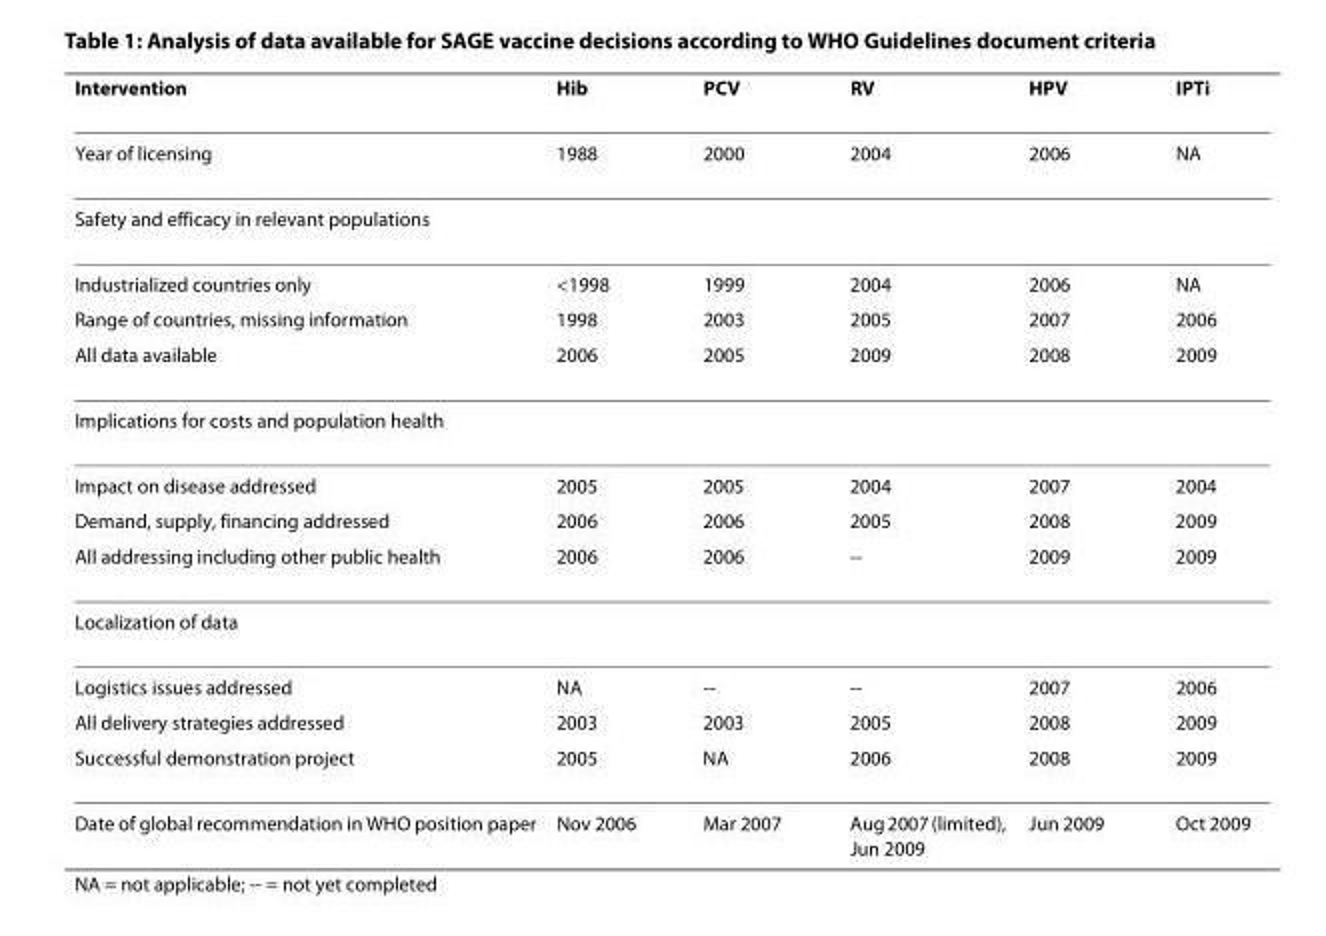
<table><thead><tr><td>Intervention</td><td>Hib</td><td>PCV</td><td>RV</td><td>HPV</td><td>IPTi</td></tr></thead><tbody><tr><td>Year of licensing</td><td>1988</td><td>2000</td><td>2004</td><td>2006</td><td>NA</td></tr><tr><td colspan="6">Safety and efficacy in relevant populations</td></tr><tr><td>Industrialized countries only</td><td>&lt;1998</td><td>1999</td><td>2004</td><td>2006</td><td>NA</td></tr><tr><td>Range of countries, missing information</td><td>1998</td><td>2003</td><td>2005</td><td>2007</td><td>2006</td></tr><tr><td>All data available</td><td>2006</td><td>2005</td><td>2009</td><td>2008</td><td>2009</td></tr><tr><td colspan="6">Implications for costs and population health</td></tr><tr><td>Impact on disease addressed</td><td>2005</td><td>2005</td><td>2004</td><td>2007</td><td>2004</td></tr><tr><td>Demand, supply, financing addressed</td><td>2006</td><td>2006</td><td>2005</td><td>2008</td><td>2009</td></tr><tr><td>All addressing including other public health</td><td>2006</td><td>2006</td><td>--</td><td>2009</td><td>2009</td></tr><tr><td colspan="6">Localization of data</td></tr><tr><td>Logistics issues addressed</td><td>NA</td><td>--</td><td>--</td><td>2007</td><td>2006</td></tr><tr><td>All delivery strategies addressed</td><td>2003</td><td>2003</td><td>2005</td><td>2008</td><td>2009</td></tr><tr><td>Successful demonstration project</td><td>2005</td><td>NA</td><td>2006</td><td>2008</td><td>2009</td></tr><tr><td>Date of global recommendation in WHO position paper</td><td>Nov 2006</td><td>Mar 2007</td><td>Aug 2007 (limited), Jun 2009</td><td>Jun 2009</td><td>Oct 2009</td></tr></tbody></table>